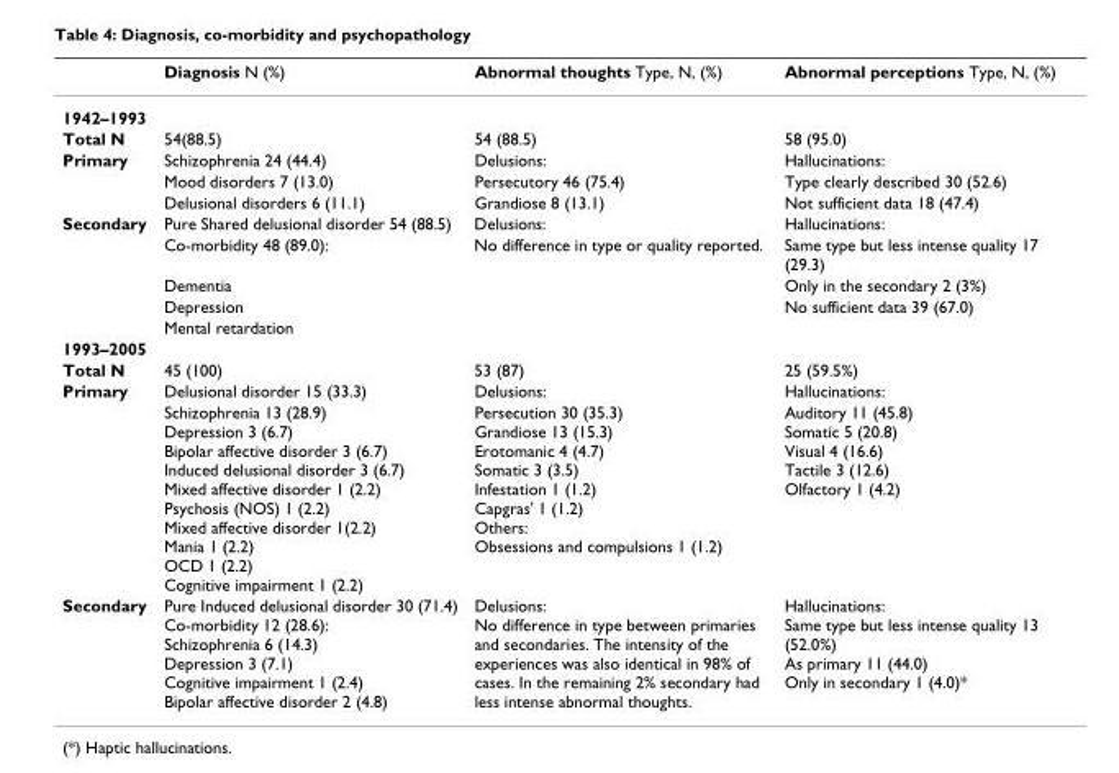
<table><thead><tr><td></td><td>Diagnosis N (%)</td><td>Abnormal thoughts Type, N, (%)</td><td>Abnormal perceptions Type, N, (%)</td></tr></thead><tbody><tr><td colspan="4">1942–1993</td></tr><tr><td>Total N</td><td>54(88.5)</td><td>54 (88.5)</td><td>58 (95.0)</td></tr><tr><td rowspan="3">Primary</td><td>Schizophrenia 24 (44.4)</td><td>Delusions:</td><td>Hallucinations:</td></tr><tr><td>Mood disorders 7 (13.0)</td><td>Persecutory 46 (75.4)</td><td>Type clearly described 30 (52.6)</td></tr><tr><td>Delusional disorders 6 (11.1)</td><td>Grandiose 8 (13.1)</td><td>Not sufficient data 18 (47.4)</td></tr><tr><td rowspan="5">Secondary</td><td>Pure Shared delusional disorder 54 (88.5)</td><td>Delusions:</td><td>Hallucinations:</td></tr><tr><td>Co-morbidity 48 (89.0):</td><td>No difference in type or quality reported.</td><td>Same type but less intense quality 17 (29.3)</td></tr><tr><td>Dementia</td><td></td><td>Only in the secondary 2 (3%)</td></tr><tr><td>Depression</td><td></td><td>No sufficient data 39 (67.0)</td></tr><tr><td>Mental retardation</td><td></td><td></td></tr><tr><td colspan="4">1993–2005</td></tr><tr><td>Total N</td><td>45 (100)</td><td>53 (87)</td><td>25 (59.5%)</td></tr><tr><td rowspan="2">Primary</td><td>Delusional disorder 15 (33.3)</td><td>Delusions:</td><td>Hallucinations:</td></tr><tr><td>Schizophrenia 13 (28.9) Depression 3 (6.7) Bipolar affective disorder 3 (6.7) Induced delusional disorder 3 (6.7) Mixed affective disorder 1 (2.2) Psychosis (NOS) 1 (2.2) Mixed affective disorder 1(2.2) Mania 1 (2.2) OCD 1 (2.2) Cognitive impairment 1 (2.2)</td><td>Persecution 30 (35.3) Grandiose 13 (15.3) Erotomanic 4 (4.7) Somatic 3 (3.5) Infestation 1 (1.2) Capgras&#x27; 1 (1.2) Others: Obsessions and compulsions 1 (1.2)</td><td>Auditory 11 (45.8) Somatic 5 (20.8) Visual 4 (16.6) Tactile 3 (12.6) Olfactory 1 (4.2)</td></tr><tr><td>Secondary</td><td>Pure Induced delusional disorder 30 (71.4) Co-morbidity 12 (28.6): Schizophrenia 6 (14.3) Depression 3 (7.1) Cognitive impairment 1 (2.4) Bipolar affective disorder 2 (4.8)</td><td>Delusions: No difference in type between primaries and secondaries. The intensity of the experiences was also identical in 98% of cases. In the remaining 2% secondary had less intense abnormal thoughts.</td><td>Hallucinations: Same type but less intense quality 13 (52.0%) As primary 11 (44.0) Only in secondary 1 (4.0)*</td></tr></tbody></table>